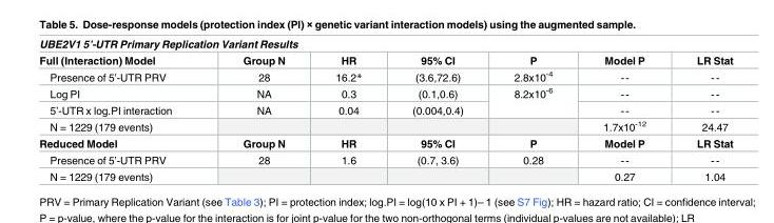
<table><thead><tr><td colspan="7">UBE2V1 5’-UTR Primary Replication Variant Results</td></tr><tr><td>Full (Interaction) Model</td><td>Group N</td><td>HR</td><td>95% CI</td><td>P</td><td>Model P</td><td>LR Stat</td></tr></thead><tbody><tr><td>Presence of 5’-UTR PRV</td><td>28</td><td>16.2*</td><td>(3.6,72.6)</td><td>2.8x10<sup>-4</sup></td><td>--</td><td>--</td></tr><tr><td>Log PI</td><td>NA</td><td>0.3</td><td>(0.1,0.6)</td><td rowspan="2">8.2x10<sup>-6</sup></td><td>--</td><td>--</td></tr><tr><td>5’-UTR x log.PI interaction</td><td>NA</td><td>0.04</td><td>(0.004,0.4)</td><td>--</td><td>--</td></tr><tr><td>N = 1229 (179 events)</td><td></td><td></td><td></td><td></td><td>1.7x10<sup>-12</sup></td><td>24.47</td></tr><tr><td>Reduced Model</td><td>Group N</td><td>HR</td><td>95% CI</td><td>P</td><td>Model P</td><td>LR Stat</td></tr><tr><td>Presence of 5’-UTR PRV</td><td>28</td><td>1.6</td><td>(0.7, 3.6)</td><td>0.28</td><td>--</td><td>--</td></tr><tr><td>N = 1229 (179 events)</td><td></td><td></td><td></td><td></td><td>0.27</td><td>1.04</td></tr></tbody></table>